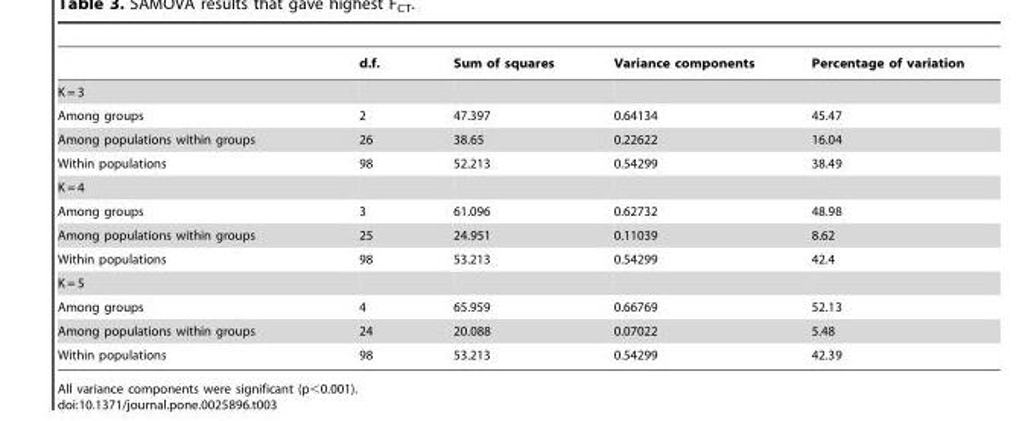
<table><thead><tr><td></td><td>d.f.</td><td>Sum of squares</td><td>Variance components</td><td>Percentage of variation</td></tr></thead><tbody><tr><td colspan="5">K = 3</td></tr><tr><td>Among groups</td><td>2</td><td>47.397</td><td>0.64134</td><td>45.47</td></tr><tr><td>Among populations within groups</td><td>26</td><td>38.65</td><td>0.22622</td><td>16.04</td></tr><tr><td>Within populations</td><td>98</td><td>52.213</td><td>0.54299</td><td>38.49</td></tr><tr><td colspan="5">K = 4</td></tr><tr><td>Among groups</td><td>3</td><td>61.096</td><td>0.62732</td><td>48.98</td></tr><tr><td>Among populations within groups</td><td>25</td><td>24.951</td><td>0.11039</td><td>8.62</td></tr><tr><td>Within populations</td><td>98</td><td>53.213</td><td>0.54299</td><td>42.4</td></tr><tr><td colspan="5">K = 5</td></tr><tr><td>Among groups</td><td>4</td><td>65.959</td><td>0.66769</td><td>52.13</td></tr><tr><td>Among populations within groups</td><td>24</td><td>20.088</td><td>0.07022</td><td>5.48</td></tr><tr><td>Within populations</td><td>98</td><td>53.213</td><td>0.54299</td><td>42.39</td></tr></tbody></table>